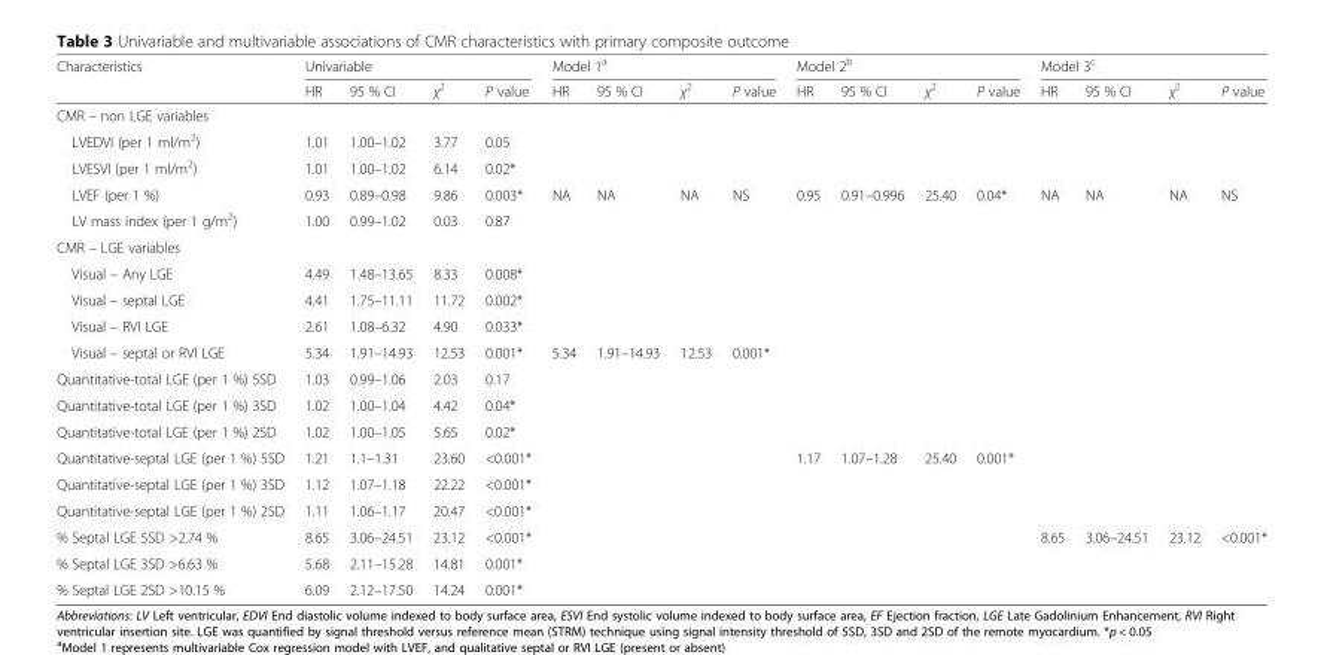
<table><thead><tr><td rowspan="2">Characteristics</td><td colspan="4">Univariable</td><td colspan="4">Model 1<sup>a</sup></td><td colspan="4">Model 2<sup>b</sup></td><td colspan="4">Model 3<sup>c</sup></td></tr><tr><td>HR</td><td>95 % CI</td><td>χ<sup>2</sup></td><td>P value</td><td>HR</td><td>95 % CI</td><td>χ<sup>2</sup></td><td>P value</td><td>HR</td><td>95 % CI</td><td>χ<sup>2</sup></td><td>P value</td><td>HR</td><td>95 % CI</td><td>χ<sup>2</sup></td><td>P value</td></tr></thead><tbody><tr><td colspan="17">CMR – non LGE variables</td></tr><tr><td>LVEDVI (per 1 ml/m<sup>2</sup>)</td><td>1.01</td><td>1.00–1.02</td><td>3.77</td><td>0.05</td><td></td><td></td><td></td><td></td><td></td><td></td><td></td><td></td><td></td><td></td><td></td><td></td></tr><tr><td>LVESVI (per 1 ml/m<sup>2</sup>)</td><td>1.01</td><td>1.00–1.02</td><td>6.14</td><td>0.02*</td><td></td><td></td><td></td><td></td><td></td><td></td><td></td><td></td><td></td><td></td><td></td><td></td></tr><tr><td>LVEF (per 1 %)</td><td>0.93</td><td>0.89–0.98</td><td>9.86</td><td>0.003*</td><td>NA</td><td>NA</td><td>NA</td><td>NS</td><td>0.95</td><td>0.91–0.996</td><td>25.40</td><td>0.04*</td><td>NA</td><td>NA</td><td>NA</td><td>NS</td></tr><tr><td>LV mass index (per 1 g/m<sup>2</sup>)</td><td>1.00</td><td>0.99–1.02</td><td>0.03</td><td>0.87</td><td></td><td></td><td></td><td></td><td></td><td></td><td></td><td></td><td></td><td></td><td></td><td></td></tr><tr><td colspan="17">CMR – LGE variables</td></tr><tr><td>Visual – Any LGE</td><td>4.49</td><td>1.48–13.65</td><td>8.33</td><td>0.008*</td><td></td><td></td><td></td><td></td><td></td><td></td><td></td><td></td><td></td><td></td><td></td><td></td></tr><tr><td>Visual – septal LGE</td><td>4.41</td><td>1.75–11.11</td><td>11.72</td><td>0.002*</td><td></td><td></td><td></td><td></td><td></td><td></td><td></td><td></td><td></td><td></td><td></td><td></td></tr><tr><td>Visual – RVI LGE</td><td>2.61</td><td>1.08–6.32</td><td>4.90</td><td>0.033*</td><td></td><td></td><td></td><td></td><td></td><td></td><td></td><td></td><td></td><td></td><td></td><td></td></tr><tr><td>Visual – septal or RVI LGE</td><td>5.34</td><td>1.91–14.93</td><td>12.53</td><td>0.001*</td><td>5.34</td><td>1.91–14.93</td><td>12.53</td><td>0.001*</td><td></td><td></td><td></td><td></td><td></td><td></td><td></td><td></td></tr><tr><td>Quantitative-total LGE (per 1 %) 5SD</td><td>1.03</td><td>0.99–1.06</td><td>2.03</td><td>0.17</td><td></td><td></td><td></td><td></td><td></td><td></td><td></td><td></td><td></td><td></td><td></td><td></td></tr><tr><td>Quantitative-total LGE (per 1 %) 3SD</td><td>1.02</td><td>1.00–1.04</td><td>4.42</td><td>0.04*</td><td></td><td></td><td></td><td></td><td></td><td></td><td></td><td></td><td></td><td></td><td></td><td></td></tr><tr><td>Quantitative-total LGE (per 1 %) 2SD</td><td>1.02</td><td>1.00–1.05</td><td>5.65</td><td>0.02*</td><td></td><td></td><td></td><td></td><td></td><td></td><td></td><td></td><td></td><td></td><td></td><td></td></tr><tr><td>Quantitative-septal LGE (per 1 %) 5SD</td><td>1.21</td><td>1.1–1.31</td><td>23.60</td><td>&lt;0.001*</td><td></td><td></td><td></td><td></td><td>1.17</td><td>1.07–1.28</td><td>25.40</td><td>0.001*</td><td></td><td></td><td></td><td></td></tr><tr><td>Quantitative-septal LGE (per 1 %) 3SD</td><td>1.12</td><td>1.07–1.18</td><td>22.22</td><td>&lt;0.001*</td><td></td><td></td><td></td><td></td><td></td><td></td><td></td><td></td><td></td><td></td><td></td><td></td></tr><tr><td>Quantitative-septal LGE (per 1 %) 2SD</td><td>1.11</td><td>1.06–1.17</td><td>20.47</td><td>&lt;0.001*</td><td></td><td></td><td></td><td></td><td></td><td></td><td></td><td></td><td></td><td></td><td></td><td></td></tr><tr><td>% Septal LGE 5SD &gt;2.74 %</td><td>8.65</td><td>3.06–24.51</td><td>23.12</td><td>&lt;0.001*</td><td></td><td></td><td></td><td></td><td></td><td></td><td></td><td></td><td>8.65</td><td>3.06–24.51</td><td>23.12</td><td>&lt;0.001*</td></tr><tr><td>% Septal LGE 3SD &gt;6.63 %</td><td>5.68</td><td>2.11–15.28</td><td>14.81</td><td>0.001*</td><td></td><td></td><td></td><td></td><td></td><td></td><td></td><td></td><td></td><td></td><td></td><td></td></tr><tr><td>% Septal LGE 2SD &gt;10.15 %</td><td>6.09</td><td>2.12–17.50</td><td>14.24</td><td>0.001*</td><td></td><td></td><td></td><td></td><td></td><td></td><td></td><td></td><td></td><td></td><td></td><td></td></tr></tbody></table>